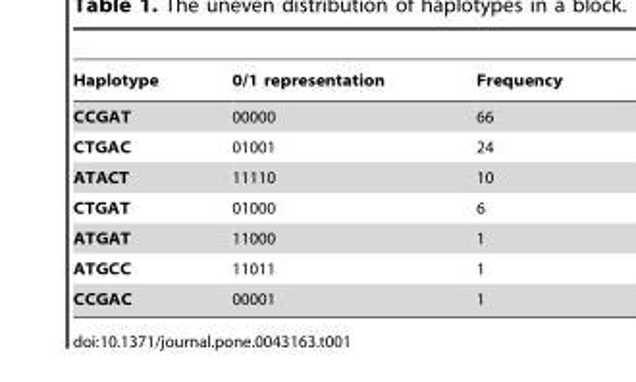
<table><thead><tr><td>Haplotype</td><td>0/1 representation</td><td>Frequency</td></tr></thead><tbody><tr><td>CCGAT</td><td>00000</td><td>66</td></tr><tr><td>CTGAC</td><td>01001</td><td>24</td></tr><tr><td>ATACT</td><td>11110</td><td>10</td></tr><tr><td>CTGAT</td><td>01000</td><td>6</td></tr><tr><td>ATGAT</td><td>11000</td><td>1</td></tr><tr><td>ATGCC</td><td>11011</td><td>1</td></tr><tr><td>CCGAC</td><td>00001</td><td>1</td></tr></tbody></table>